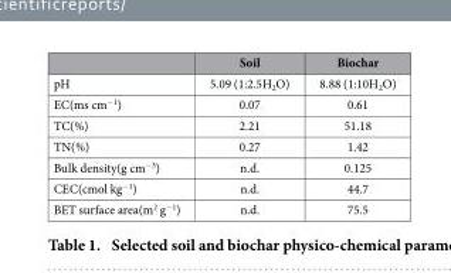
<table><thead><tr><td></td><td>Soil</td><td>Biochar</td></tr></thead><tbody><tr><td>pH</td><td>5.09 (1:2.5H<sub>2</sub>O)</td><td>8.88 (1:10H<sub>2</sub>O)</td></tr><tr><td>EC(ms cm<sup>−1</sup>)</td><td>0.07</td><td>0.61</td></tr><tr><td>TC(%)</td><td>2.21</td><td>51.18</td></tr><tr><td>TN(%)</td><td>0.27</td><td>1.42</td></tr><tr><td>Bulk density(g cm<sup>−3</sup>)</td><td>n.d.</td><td>0.125</td></tr><tr><td>CEC(cmol kg<sup>−1</sup>)</td><td>n.d.</td><td>44.7</td></tr><tr><td>BET surface area(m<sup>2</sup> g<sup>−1</sup>)</td><td>n.d.</td><td>75.5</td></tr></tbody></table>